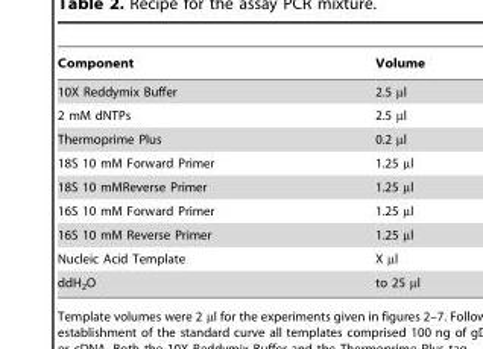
<table><thead><tr><td>Component</td><td>Volume</td></tr></thead><tbody><tr><td>10X Reddymix Buffer</td><td>2.5 µl</td></tr><tr><td>2 mM dNTPs</td><td>2.5 µl</td></tr><tr><td>Thermoprime Plus</td><td>0.2 µl</td></tr><tr><td>18S 10 mM Forward Primer</td><td>1.25 µl</td></tr><tr><td>18S 10 mMReverse Primer</td><td>1.25 µl</td></tr><tr><td>16S 10 mM Forward Primer</td><td>1.25 µl</td></tr><tr><td>16S 10 mM Reverse Primer</td><td>1.25 µl</td></tr><tr><td>Nucleic Acid Template</td><td>X µl</td></tr><tr><td>ddH<sub>2</sub>O</td><td>to 25 µl</td></tr></tbody></table>